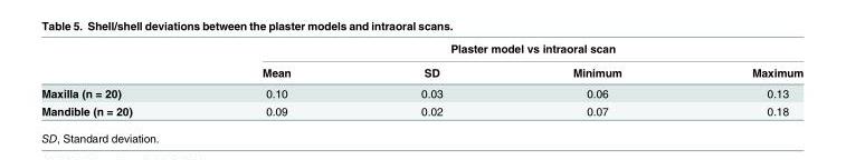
<table><thead><tr><td rowspan="2"></td><td colspan="4">Plaster model vs intraoral scan</td></tr><tr><td>Mean</td><td>SD</td><td>Minimum</td><td>Maximum</td></tr></thead><tbody><tr><td>Maxilla (n = 20)</td><td>0.10</td><td>0.03</td><td>0.06</td><td>0.13</td></tr><tr><td>Mandible (n = 20)</td><td>0.09</td><td>0.02</td><td>0.07</td><td>0.18</td></tr></tbody></table>